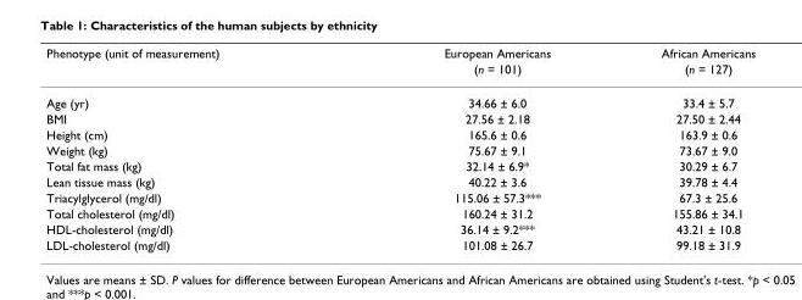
<table><thead><tr><td rowspan="2">Phenotype (unit of measurement)</td><td rowspan="2">European Americans (n = 101)</td><td rowspan="2">African Americans (n = 127)</td></tr><tr></tr></thead><tbody><tr><td>Age (yr)</td><td>34.66 ± 6.0</td><td>33.4 ± 5.7</td></tr><tr><td>BMI</td><td>27.56 ± 2.18</td><td>27.50 ± 2.44</td></tr><tr><td>Height (cm)</td><td>165.6 ± 0.6</td><td>163.9 ± 0.6</td></tr><tr><td>Weight (kg)</td><td>75.67 ± 9.1</td><td>73.67 ± 9.0</td></tr><tr><td>Total fat mass (kg)</td><td>32.14 ± 6.9*</td><td>30.29 ± 6.7</td></tr><tr><td>Lean tissue mass (kg)</td><td>40.22 ± 3.6</td><td>39.78 ± 4.4</td></tr><tr><td>Triacylglycerol (mg/dl)</td><td>115.06 ± 57.3***</td><td>67.3 ± 25.6</td></tr><tr><td>Total cholesterol (mg/dl)</td><td>160.24 ± 31.2</td><td>155.86 ± 34.1</td></tr><tr><td>HDL-cholesterol (mg/dl)</td><td>36.14 ± 9.2***</td><td>43.21 ± 10.8</td></tr><tr><td>LDL-cholesterol (mg/dl)</td><td>101.08 ± 26.7</td><td>99.18 ± 31.9</td></tr></tbody></table>